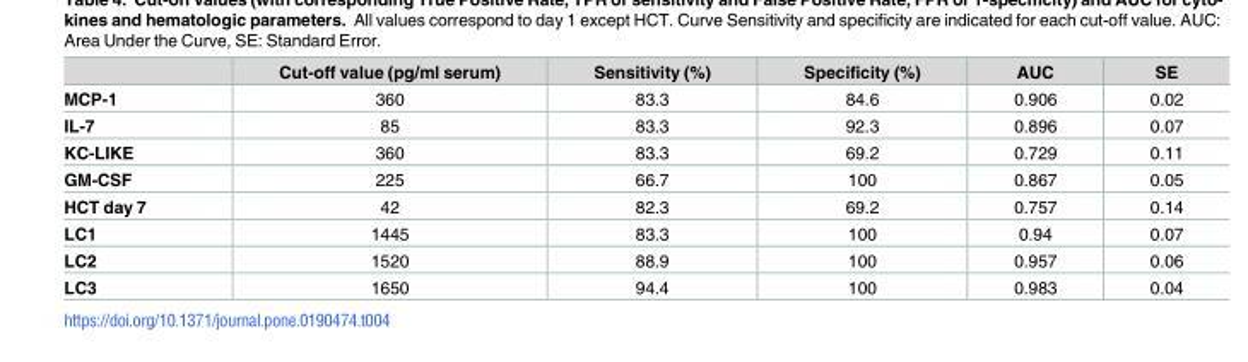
<table><thead><tr><td></td><td>Cut-off value (pg/ml serum)</td><td>Sensitivity (%)</td><td>Specificity (%)</td><td>AUC</td><td>SE</td></tr></thead><tbody><tr><td>MCP-1</td><td>360</td><td>83.3</td><td>84.6</td><td>0.906</td><td>0.02</td></tr><tr><td>IL-7</td><td>85</td><td>83.3</td><td>92.3</td><td>0.896</td><td>0.07</td></tr><tr><td>KC-LIKE</td><td>360</td><td>83.3</td><td>69.2</td><td>0.729</td><td>0.11</td></tr><tr><td>GM-CSF</td><td>225</td><td>66.7</td><td>100</td><td>0.867</td><td>0.05</td></tr><tr><td>HCT day 7</td><td>42</td><td>82.3</td><td>69.2</td><td>0.757</td><td>0.14</td></tr><tr><td>LC1</td><td>1445</td><td>83.3</td><td>100</td><td>0.94</td><td>0.07</td></tr><tr><td>LC2</td><td>1520</td><td>88.9</td><td>100</td><td>0.957</td><td>0.06</td></tr><tr><td>LC3</td><td>1650</td><td>94.4</td><td>100</td><td>0.983</td><td>0.04</td></tr></tbody></table>